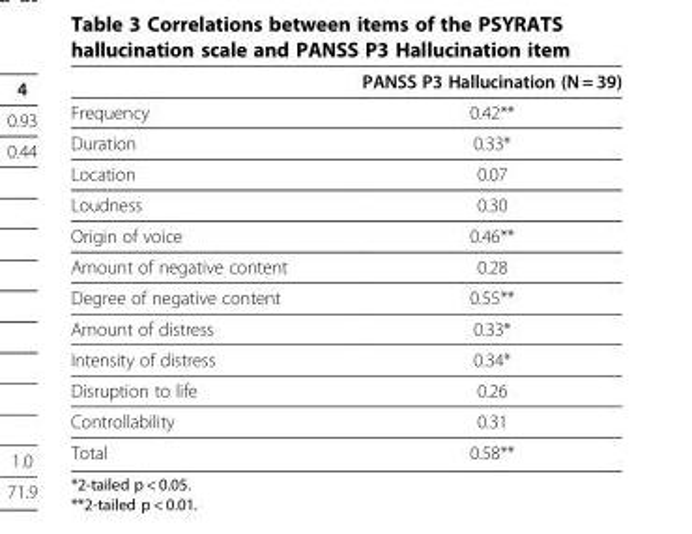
<table><thead><tr><td></td><td>PANSS P3 Hallucination (N = 39)</td></tr></thead><tbody><tr><td>Frequency</td><td>0.42**</td></tr><tr><td>Duration</td><td>0.33*</td></tr><tr><td>Location</td><td>0.07</td></tr><tr><td>Loudness</td><td>0.30</td></tr><tr><td>Origin of voice</td><td>0.46**</td></tr><tr><td>Amount of negative content</td><td>0.28</td></tr><tr><td>Degree of negative content</td><td>0.55**</td></tr><tr><td>Amount of distress</td><td>0.33*</td></tr><tr><td>Intensity of distress</td><td>0.34*</td></tr><tr><td>Disruption to life</td><td>0.26</td></tr><tr><td>Controllability</td><td>0.31</td></tr><tr><td>Total</td><td>0.58**</td></tr></tbody></table>